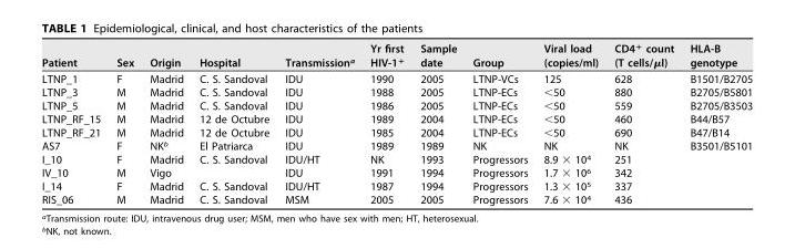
<table><thead><tr><td>Patient</td><td>Sex</td><td>Origin</td><td>Hospital</td><td>Transmission<sup>a</sup></td><td>Yr first HIV-1<sup>+</sup></td><td>Sample date</td><td>Group</td><td>Viral load (copies/ml)</td><td>CD4<sup>+</sup> count (T cells/µl)</td><td>HLA-B genotype</td></tr></thead><tbody><tr><td>LTNP_1</td><td>F</td><td>Madrid</td><td>C. S. Sandoval</td><td>IDU</td><td>1990</td><td>2005</td><td>LTNP-VCs</td><td>125</td><td>628</td><td>B1501/B2705</td></tr><tr><td>LTNP_3</td><td>M</td><td>Madrid</td><td>C. S. Sandoval</td><td>IDU</td><td>1988</td><td>2005</td><td>LTNP-ECs</td><td>&lt;50</td><td>880</td><td>B2705/B5801</td></tr><tr><td>LTNP_5</td><td>M</td><td>Madrid</td><td>C. S. Sandoval</td><td>IDU</td><td>1986</td><td>2005</td><td>LTNP-ECs</td><td>&lt;50</td><td>559</td><td>B2705/B3503</td></tr><tr><td>LTNP_RF_15</td><td>M</td><td>Madrid</td><td>12 de Octubre</td><td>IDU</td><td>1989</td><td>2004</td><td>LTNP-ECs</td><td>&lt;50</td><td>460</td><td>B44/B57</td></tr><tr><td>LTNP_RF_21</td><td>M</td><td>Madrid</td><td>12 de Octubre</td><td>IDU</td><td>1985</td><td>2004</td><td>LTNP-ECs</td><td>&lt;50</td><td>690</td><td>B47/B14</td></tr><tr><td>AS7</td><td>F</td><td>NK<sup>b</sup></td><td>El Patriarca</td><td>IDU</td><td>1989</td><td>1989</td><td>NK</td><td>NK</td><td>NK</td><td>B3501/B5101</td></tr><tr><td>I_10</td><td>F</td><td>Madrid</td><td>C. S. Sandoval</td><td>IDU/HT</td><td>NK</td><td>1993</td><td>Progressors</td><td>8.9 × 10<sup>4</sup></td><td>251</td><td></td></tr><tr><td>IV_10</td><td>M</td><td>Vigo</td><td></td><td>IDU</td><td>1991</td><td>1994</td><td>Progressors</td><td>1.7 × 10<sup>6</sup></td><td>342</td><td></td></tr><tr><td>I_14</td><td>F</td><td>Madrid</td><td>C. S. Sandoval</td><td>IDU/HT</td><td>1987</td><td>1994</td><td>Progressors</td><td>1.3 × 10<sup>5</sup></td><td>337</td><td></td></tr><tr><td>RIS_06</td><td>M</td><td>Madrid</td><td>C. S. Sandoval</td><td>MSM</td><td>2005</td><td>2005</td><td>Progressors</td><td>7.6 × 10<sup>4</sup></td><td>436</td><td></td></tr></tbody></table>